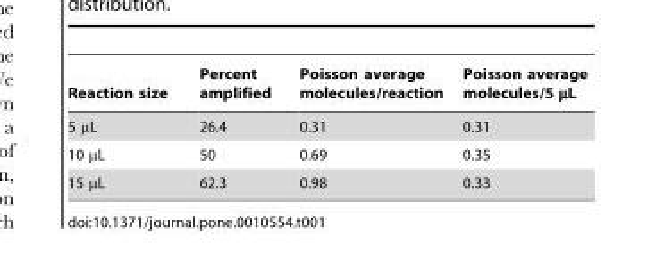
<table><thead><tr><td>Reaction size</td><td>Percent amplified</td><td>Poisson average molecules/reaction</td><td>Poisson average molecules/5 µL</td></tr></thead><tbody><tr><td>5 µL</td><td>26.4</td><td>0.31</td><td>0.31</td></tr><tr><td>10 µL</td><td>50</td><td>0.69</td><td>0.35</td></tr><tr><td>15 µL</td><td>62.3</td><td>0.98</td><td>0.33</td></tr></tbody></table>